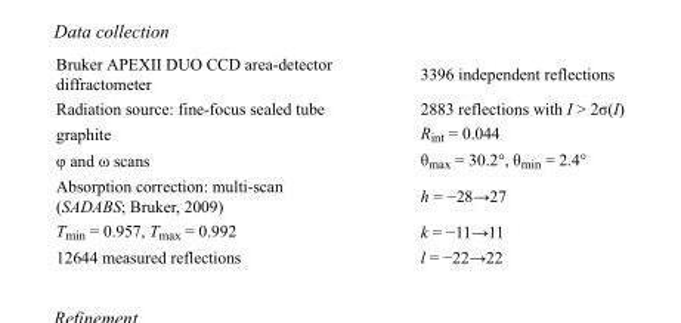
<table><tbody><tr><td>Bruker APEXII DUO CCD area-detector diffractometer</td><td>3396 independent reflections</td></tr><tr><td>Radiation source: fine-focus sealed tube</td><td>2883 reflections with I &gt; 2σ(I)</td></tr><tr><td>graphite</td><td>R<sub>int</sub> = 0.044</td></tr><tr><td>φ and ω scans</td><td>θ<sub>max</sub> = 30.2°, θ<sub>min</sub> = 2.4°</td></tr><tr><td>Absorption correction: multi-scan (SADABS; Bruker, 2009)</td><td>h = −28→27</td></tr><tr><td>T<sub>min</sub> = 0.957, T<sub>max</sub> = 0.992</td><td>k = −11→11</td></tr><tr><td>12644 measured reflections</td><td>l = −22→22</td></tr></tbody></table>